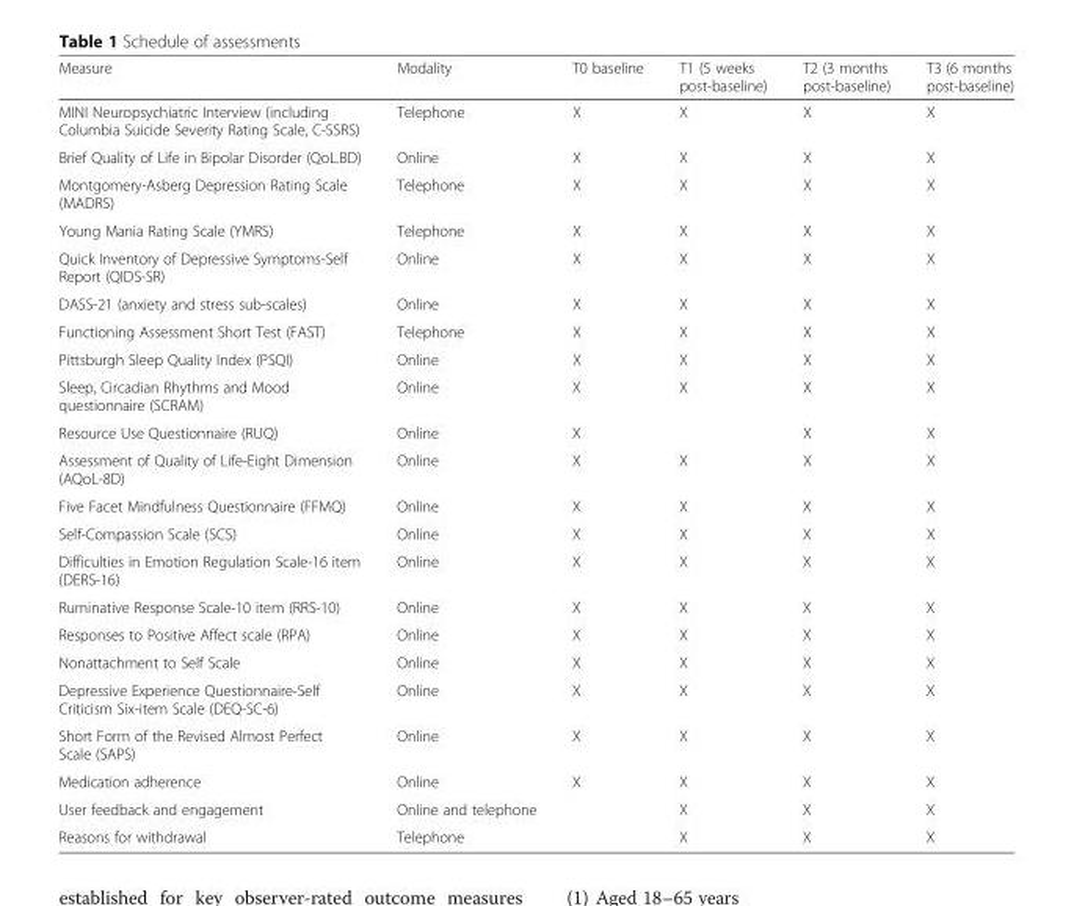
<table><thead><tr><td>Measure</td><td>Modality</td><td>T0 baseline</td><td>T1 (5 weeks post-baseline)</td><td>T2 (3 months post-baseline)</td><td>T3 (6 months post-baseline)</td></tr></thead><tbody><tr><td>MINI Neuropsychiatric Interview (including Columbia Suicide Severity Rating Scale, C-SSRS)</td><td>Telephone</td><td>X</td><td>X</td><td>X</td><td>X</td></tr><tr><td>Brief Quality of Life in Bipolar Disorder (QoL.BD)</td><td>Online</td><td>X</td><td>X</td><td>X</td><td>X</td></tr><tr><td>Montgomery-Asberg Depression Rating Scale (MADRS)</td><td>Telephone</td><td>X</td><td>X</td><td>X</td><td>X</td></tr><tr><td>Young Mania Rating Scale (YMRS)</td><td>Telephone</td><td>X</td><td>X</td><td>X</td><td>X</td></tr><tr><td>Quick Inventory of Depressive Symptoms-Self Report (QIDS-SR)</td><td>Online</td><td>X</td><td>X</td><td>X</td><td>X</td></tr><tr><td>DASS-21 (anxiety and stress sub-scales)</td><td>Online</td><td>X</td><td>X</td><td>X</td><td>X</td></tr><tr><td>Functioning Assessment Short Test (FAST)</td><td>Telephone</td><td>X</td><td>X</td><td>X</td><td>X</td></tr><tr><td>Pittsburgh Sleep Quality Index (PSQI)</td><td>Online</td><td>X</td><td>X</td><td>X</td><td>X</td></tr><tr><td>Sleep, Circadian Rhythms and Mood questionnaire (SCRAM)</td><td>Online</td><td>X</td><td>X</td><td>X</td><td>X</td></tr><tr><td>Resource Use Questionnaire (RUQ)</td><td>Online</td><td>X</td><td></td><td>X</td><td>X</td></tr><tr><td>Assessment of Quality of Life-Eight Dimension (AQoL-8D)</td><td>Online</td><td>X</td><td>X</td><td>X</td><td>X</td></tr><tr><td>Five Facet Mindfulness Questionnaire (FFMQ)</td><td>Online</td><td>X</td><td>X</td><td>X</td><td>X</td></tr><tr><td>Self-Compassion Scale (SCS)</td><td>Online</td><td>X</td><td>X</td><td>X</td><td>X</td></tr><tr><td>Difficulties in Emotion Regulation Scale-16 item (DERS-16)</td><td>Online</td><td>X</td><td>X</td><td>X</td><td>X</td></tr><tr><td>Ruminative Response Scale-10 item (RRS-10)</td><td>Online</td><td>X</td><td>X</td><td>X</td><td>X</td></tr><tr><td>Responses to Positive Affect scale (RPA)</td><td>Online</td><td>X</td><td>X</td><td>X</td><td>X</td></tr><tr><td>Nonattachment to Self Scale</td><td>Online</td><td>X</td><td>X</td><td>X</td><td>X</td></tr><tr><td>Depressive Experience Questionnaire-Self Criticism Six-item Scale (DEQ-SC-6)</td><td>Online</td><td>X</td><td>X</td><td>X</td><td>X</td></tr><tr><td>Short Form of the Revised Almost Perfect Scale (SAPS)</td><td>Online</td><td>X</td><td>X</td><td>X</td><td>X</td></tr><tr><td>Medication adherence</td><td>Online</td><td>X</td><td>X</td><td>X</td><td>X</td></tr><tr><td>User feedback and engagement</td><td>Online and telephone</td><td></td><td>X</td><td>X</td><td>X</td></tr><tr><td>Reasons for withdrawal</td><td>Telephone</td><td></td><td>X</td><td>X</td><td>X</td></tr></tbody></table>